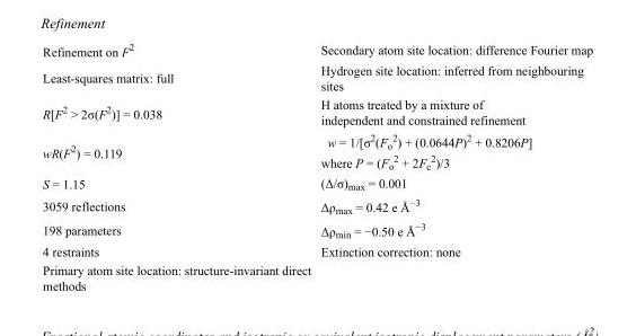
<table><tbody><tr><td>Refinement on F<sup>2</sup></td><td>Secondary atom site location: difference Fourier map</td></tr><tr><td>Least-squares matrix: full</td><td>Hydrogen site location: inferred from neighbouring sites</td></tr><tr><td>R[F<sup>2</sup> &gt; 2σ(F<sup>2</sup>)] = 0.038</td><td>H atoms treated by a mixture of independent and constrained refinement</td></tr><tr><td>wR(F<sup>2</sup>) = 0.119</td><td>w = 1/[σ<sup>2</sup>(F<sub>o</sub> <sup>2</sup>) + (0.0644P)<sup>2</sup> + 0.8206P] where P = (F<sub>o</sub> <sup>2</sup> + 2F<sub>c</sub> <sup>2</sup>)/3</td></tr><tr><td>S = 1.15</td><td>(Δ/σ)<sub>max</sub> = 0.001</td></tr><tr><td>3059 reflections</td><td>Δρ<sub>max</sub> = 0.42 e Å<sup>−3</sup></td></tr><tr><td>198 parameters</td><td>Δρ<sub>min</sub> = −0.50 e Å<sup>−3</sup></td></tr><tr><td>4 restraints</td><td>Extinction correction: none</td></tr><tr><td>Primary atom site location: structure-invariant direct methods</td><td></td></tr></tbody></table>